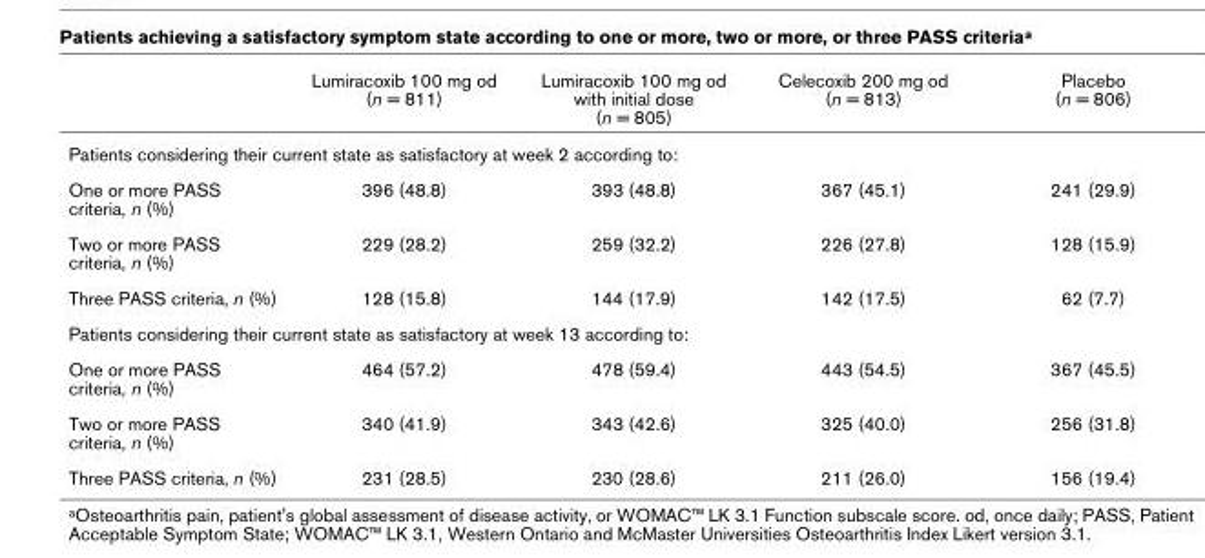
<table><thead><tr><td></td><td>Lumiracoxib 100 mg od (n = 811)</td><td>Lumiracoxib 100 mg od with initial dose (n = 805)</td><td>Celecoxib 200 mg od (n = 813)</td><td>Placebo (n = 806)</td></tr></thead><tbody><tr><td colspan="5">Patients considering their current state as satisfactory at week 2 according to:</td></tr><tr><td>One or more PASS criteria, n (%)</td><td>396 (48.8)</td><td>393 (48.8)</td><td>367 (45.1)</td><td>241 (29.9)</td></tr><tr><td>Two or more PASS criteria, n (%)</td><td>229 (28.2)</td><td>259 (32.2)</td><td>226 (27.8)</td><td>128 (15.9)</td></tr><tr><td>Three PASS criteria, n (%)</td><td>128 (15.8)</td><td>144 (17.9)</td><td>142 (17.5)</td><td>62 (7.7)</td></tr><tr><td colspan="5">Patients considering their current state as satisfactory at week 13 according to:</td></tr><tr><td>One or more PASS criteria, n (%)</td><td>464 (57.2)</td><td>478 (59.4)</td><td>443 (54.5)</td><td>367 (45.5)</td></tr><tr><td>Two or more PASS criteria, n (%)</td><td>340 (41.9)</td><td>343 (42.6)</td><td>325 (40.0)</td><td>256 (31.8)</td></tr><tr><td>Three PASS criteria, n (%)</td><td>231 (28.5)</td><td>230 (28.6)</td><td>211 (26.0)</td><td>156 (19.4)</td></tr></tbody></table>